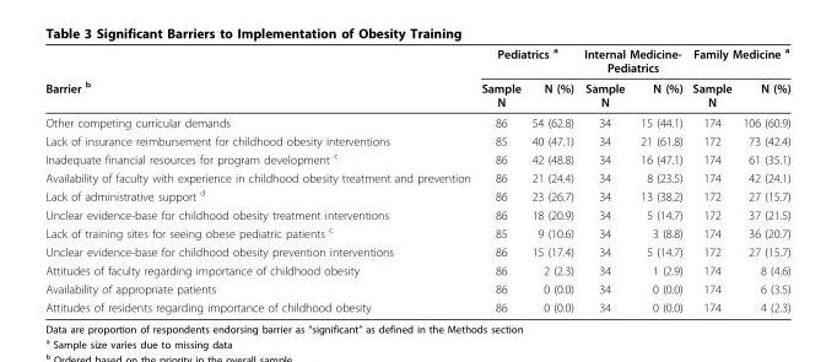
<table><thead><tr><td rowspan="2">Barrier <sup>b</sup></td><td colspan="2">Pediatrics <sup>a</sup></td><td colspan="2">Internal Medicine- Pediatrics</td><td colspan="2">Family Medicine <sup>a</sup></td></tr><tr><td>Sample N</td><td>N (%)</td><td>Sample N</td><td>N (%)</td><td>Sample N</td><td>N (%)</td></tr></thead><tbody><tr><td>Other competing curricular demands</td><td>86</td><td>54 (62.8)</td><td>34</td><td>15 (44.1)</td><td>174</td><td>106 (60.9)</td></tr><tr><td>Lack of insurance reimbursement for childhood obesity interventions</td><td>85</td><td>40 (47.1)</td><td>34</td><td>21 (61.8)</td><td>172</td><td>73 (42.4)</td></tr><tr><td>Inadequate financial resources for program development <sup>c</sup></td><td>86</td><td>42 (48.8)</td><td>34</td><td>16 (47.1)</td><td>174</td><td>61 (35.1)</td></tr><tr><td>Availability of faculty with experience in childhood obesity treatment and prevention</td><td>86</td><td>21 (24.4)</td><td>34</td><td>8 (23.5)</td><td>174</td><td>42 (24.1)</td></tr><tr><td>Lack of administrative support <sup>d</sup></td><td>86</td><td>23 (26.7)</td><td>34</td><td>13 (38.2)</td><td>172</td><td>27 (15.7)</td></tr><tr><td>Unclear evidence-base for childhood obesity treatment interventions</td><td>86</td><td>18 (20.9)</td><td>34</td><td>5 (14.7)</td><td>172</td><td>37 (21.5)</td></tr><tr><td>Lack of training sites for seeing obese pediatric patients <sup>c</sup></td><td>85</td><td>9 (10.6)</td><td>34</td><td>3 (8.8)</td><td>174</td><td>36 (20.7)</td></tr><tr><td>Unclear evidence-base for childhood obesity prevention interventions</td><td>86</td><td>15 (17.4)</td><td>34</td><td>5 (14.7)</td><td>172</td><td>27 (15.7)</td></tr><tr><td>Attitudes of faculty regarding importance of childhood obesity</td><td>86</td><td>2 (2.3)</td><td>34</td><td>1 (2.9)</td><td>174</td><td>8 (4.6)</td></tr><tr><td>Availability of appropriate patients</td><td>86</td><td>0 (0.0)</td><td>34</td><td>0 (0.0)</td><td>174</td><td>6 (3.5)</td></tr><tr><td>Attitudes of residents regarding importance of childhood obesity</td><td>86</td><td>0 (0.0)</td><td>34</td><td>0 (0.0)</td><td>174</td><td>4 (2.3)</td></tr></tbody></table>